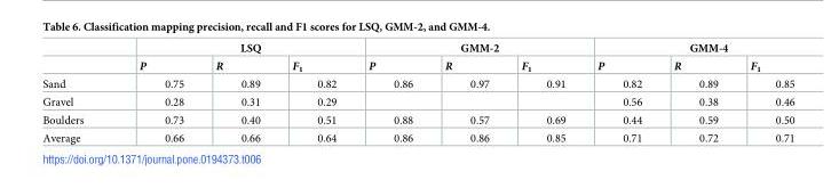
<table><thead><tr><td rowspan="2"></td><td colspan="3">LSQ</td><td colspan="3">GMM-2</td><td colspan="3">GMM-4</td></tr><tr><td>P</td><td>R</td><td>F<sub>1</sub></td><td>P</td><td>R</td><td>F<sub>1</sub></td><td>P</td><td>R</td><td>F<sub>1</sub></td></tr></thead><tbody><tr><td>Sand</td><td>0.75</td><td>0.89</td><td>0.82</td><td>0.86</td><td>0.97</td><td>0.91</td><td>0.82</td><td>0.89</td><td>0.85</td></tr><tr><td>Gravel</td><td>0.28</td><td>0.31</td><td>0.29</td><td></td><td></td><td></td><td>0.56</td><td>0.38</td><td>0.46</td></tr><tr><td>Boulders</td><td>0.73</td><td>0.40</td><td>0.51</td><td>0.88</td><td>0.57</td><td>0.69</td><td>0.44</td><td>0.59</td><td>0.50</td></tr><tr><td>Average</td><td>0.66</td><td>0.66</td><td>0.64</td><td>0.86</td><td>0.86</td><td>0.85</td><td>0.71</td><td>0.72</td><td>0.71</td></tr></tbody></table>